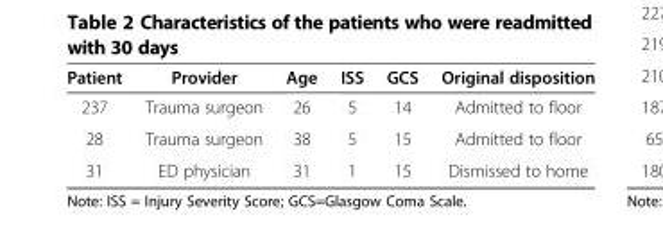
<table><thead><tr><td>Patient</td><td>Provider</td><td>Age</td><td>ISS</td><td>GCS</td><td>Original disposition</td></tr></thead><tbody><tr><td>237</td><td>Trauma surgeon</td><td>26</td><td>5</td><td>14</td><td>Admitted to floor</td></tr><tr><td>28</td><td>Trauma surgeon</td><td>38</td><td>5</td><td>15</td><td>Admitted to floor</td></tr><tr><td>31</td><td>ED physician</td><td>31</td><td>1</td><td>15</td><td>Dismissed to home</td></tr></tbody></table>